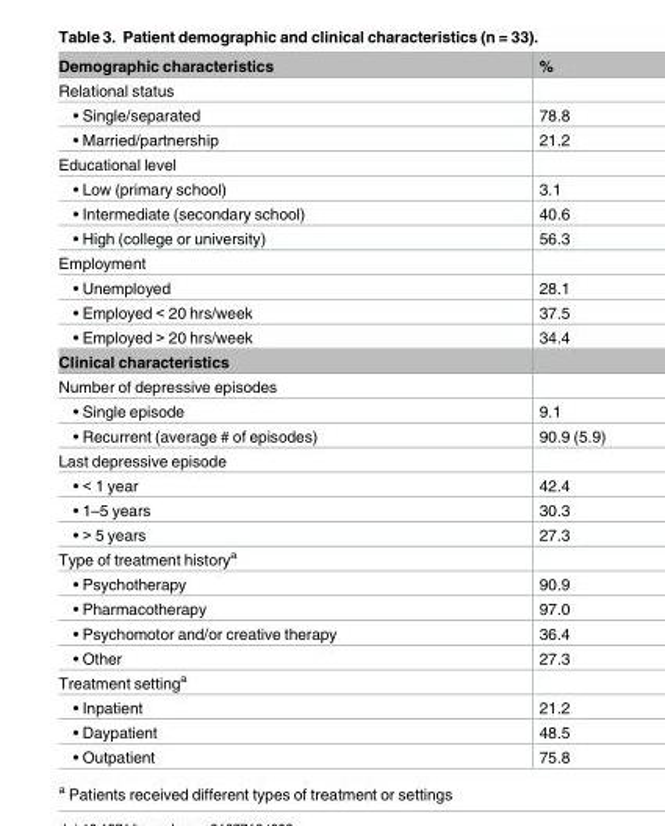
<table><tbody><tr><td>Demographic characteristics</td><td>%</td></tr><tr><td colspan="2">Relational status</td></tr><tr><td>• Single/separated</td><td>78.8</td></tr><tr><td>• Married/partnership</td><td>21.2</td></tr><tr><td colspan="2">Educational level</td></tr><tr><td>• Low (primary school)</td><td>3.1</td></tr><tr><td>• Intermediate (secondary school)</td><td>40.6</td></tr><tr><td>• High (college or university)</td><td>56.3</td></tr><tr><td colspan="2">Employment</td></tr><tr><td>• Unemployed</td><td>28.1</td></tr><tr><td>• Employed &lt; 20 hrs/week</td><td>37.5</td></tr><tr><td>• Employed &gt; 20 hrs/week</td><td>34.4</td></tr><tr><td colspan="2">Clinical characteristics</td></tr><tr><td colspan="2">Number of depressive episodes</td></tr><tr><td>• Single episode</td><td>9.1</td></tr><tr><td>• Recurrent (average # of episodes)</td><td>90.9 (5.9)</td></tr><tr><td colspan="2">Last depressive episode</td></tr><tr><td>• &lt; 1 year</td><td>42.4</td></tr><tr><td>• 1–5 years</td><td>30.3</td></tr><tr><td>• &gt; 5 years</td><td>27.3</td></tr><tr><td colspan="2">Type of treatment history<sup>a</sup></td></tr><tr><td>• Psychotherapy</td><td>90.9</td></tr><tr><td>• Pharmacotherapy</td><td>97.0</td></tr><tr><td>• Psychomotor and/or creative therapy</td><td>36.4</td></tr><tr><td>• Other</td><td>27.3</td></tr><tr><td colspan="2">Treatment setting<sup>a</sup></td></tr><tr><td>• Inpatient</td><td>21.2</td></tr><tr><td>• Daypatient</td><td>48.5</td></tr><tr><td>• Outpatient</td><td>75.8</td></tr></tbody></table>